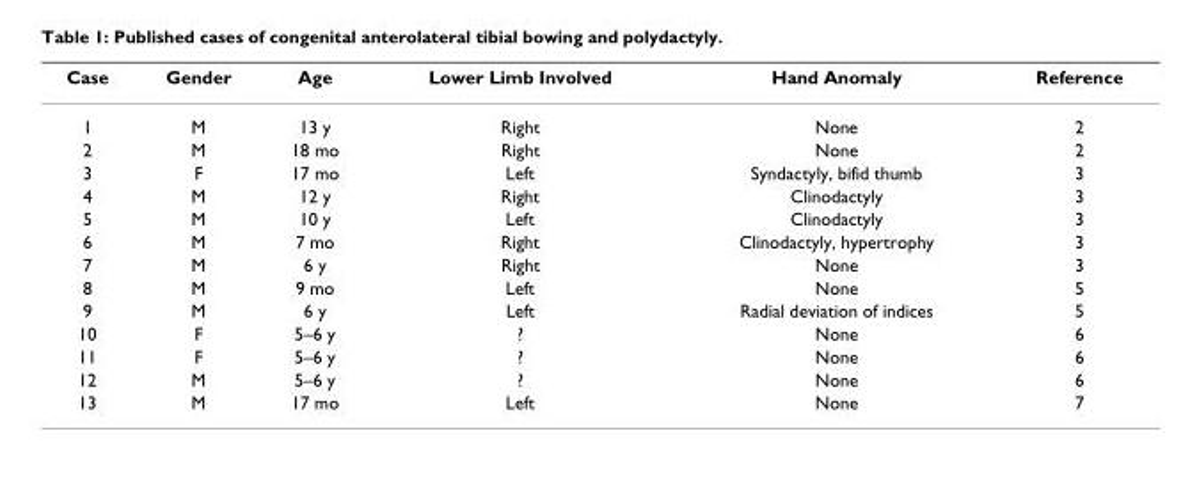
<table><thead><tr><td>Case</td><td>Gender</td><td>Age</td><td>Lower Limb Involved</td><td>Hand Anomaly</td><td>Reference</td></tr></thead><tbody><tr><td>1</td><td>M</td><td>13 y</td><td>Right</td><td>None</td><td>2</td></tr><tr><td>2</td><td>M</td><td>18 mo</td><td>Right</td><td>None</td><td>2</td></tr><tr><td>3</td><td>F</td><td>17 mo</td><td>Left</td><td>Syndactyly, bifid thumb</td><td>3</td></tr><tr><td>4</td><td>M</td><td>12 y</td><td>Right</td><td>Clinodactyly</td><td>3</td></tr><tr><td>5</td><td>M</td><td>10 y</td><td>Left</td><td>Clinodactyly</td><td>3</td></tr><tr><td>6</td><td>M</td><td>7 mo</td><td>Right</td><td>Clinodactyly, hypertrophy</td><td>3</td></tr><tr><td>7</td><td>M</td><td>6 y</td><td>Right</td><td>None</td><td>3</td></tr><tr><td>8</td><td>M</td><td>9 mo</td><td>Left</td><td>None</td><td>5</td></tr><tr><td>9</td><td>M</td><td>6 y</td><td>Left</td><td>Radial deviation of indices</td><td>5</td></tr><tr><td>10</td><td>F</td><td>5–6 y</td><td>?</td><td>None</td><td>6</td></tr><tr><td>11</td><td>F</td><td>5–6 y</td><td>?</td><td>None</td><td>6</td></tr><tr><td>12</td><td>M</td><td>5–6 y</td><td>?</td><td>None</td><td>6</td></tr><tr><td>13</td><td>M</td><td>17 mo</td><td>Left</td><td>None</td><td>7</td></tr></tbody></table>